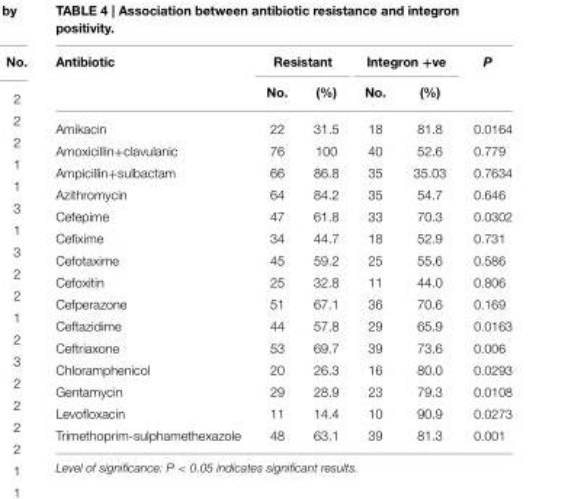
<table><thead><tr><td rowspan="2">Antibiotic</td><td colspan="2">Resistant</td><td colspan="2">Integron +ve</td><td rowspan="2">P</td></tr><tr><td>No.</td><td>(%)</td><td>No.</td><td>(%)</td></tr></thead><tbody><tr><td>Amikacin</td><td>22</td><td>31.5</td><td>18</td><td>81.8</td><td>0.0164</td></tr><tr><td>Amoxicillin+clavulanic</td><td>76</td><td>100</td><td>40</td><td>52.6</td><td>0.779</td></tr><tr><td>Ampicillin+sulbactam</td><td>66</td><td>86.8</td><td>35</td><td>35.03</td><td>0.7634</td></tr><tr><td>Azithromycin</td><td>64</td><td>84.2</td><td>35</td><td>54.7</td><td>0.646</td></tr><tr><td>Cefepime</td><td>47</td><td>61.8</td><td>33</td><td>70.3</td><td>0.0302</td></tr><tr><td>Cefixime</td><td>34</td><td>44.7</td><td>18</td><td>52.9</td><td>0.731</td></tr><tr><td>Cefotaxime</td><td>45</td><td>59.2</td><td>25</td><td>55.6</td><td>0.586</td></tr><tr><td>Cefoxitin</td><td>25</td><td>32.8</td><td>11</td><td>44.0</td><td>0.806</td></tr><tr><td>Cefperazone</td><td>51</td><td>67.1</td><td>36</td><td>70.6</td><td>0.169</td></tr><tr><td>Ceftazidime</td><td>44</td><td>57.8</td><td>29</td><td>65.9</td><td>0.0163</td></tr><tr><td>Ceftriaxone</td><td>53</td><td>69.7</td><td>39</td><td>73.6</td><td>0.006</td></tr><tr><td>Chloramphenicol</td><td>20</td><td>26.3</td><td>16</td><td>80.0</td><td>0.0293</td></tr><tr><td>Gentamycin</td><td>29</td><td>28.9</td><td>23</td><td>79.3</td><td>0.0108</td></tr><tr><td>Levofloxacin</td><td>11</td><td>14.4</td><td>10</td><td>90.9</td><td>0.0273</td></tr><tr><td>Trimethoprim-sulphamethexazole</td><td>48</td><td>63.1</td><td>39</td><td>81.3</td><td>0.001</td></tr></tbody></table>